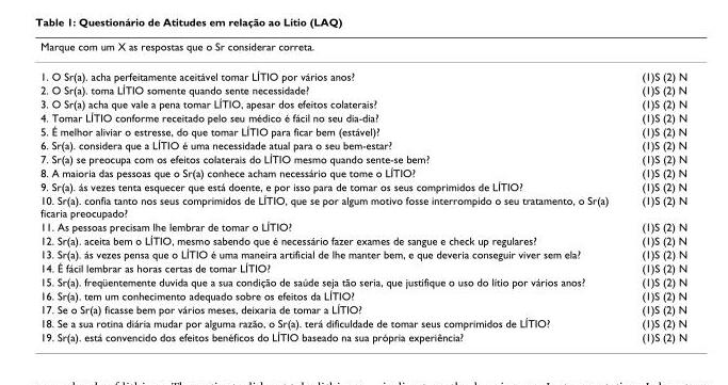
<table><thead><tr><td>Marque com um X as respostas que o Sr considerar correta.</td><td></td></tr></thead><tbody><tr><td>1. O Sr(a). acha perfeitamente aceitável tomar LÍTIO por vários anos?</td><td>(1)S (2) N</td></tr><tr><td>2. O Sr(a). toma LÍTIO somente quando sente necessidade?</td><td>(1)S (2) N</td></tr><tr><td>3. O Sr(a) acha que vale a pena tomar LÍTIO, apesar dos efeitos colaterais?</td><td>(1)S (2) N</td></tr><tr><td>4. Tomar LÍTIO conforme receitado pelo seu médico é fácil no seu dia-dia?</td><td>(1)S (2) N</td></tr><tr><td>5. É melhor aliviar o estresse, do que tomar LÍTIO para ficar bem (estável)?</td><td>(1)S (2) N</td></tr><tr><td>6. Sr(a). considera que a LÍTIO é uma necessidade atual para o seu bem-estar?</td><td>(1)S (2) N</td></tr><tr><td>7. Sr(a) se preocupa com os efeitos colaterais do LÍTIO mesmo quando sente-se bem?</td><td>(1)S (2) N</td></tr><tr><td>8. A maioria das pessoas que o Sr(a) conhece acham necessário que tome o LÍTIO?</td><td>(1)S (2) N</td></tr><tr><td>9. Sr(a). ás vezes tenta esquecer que está doente, e por isso para de tomar os seus comprimidos de LÍTIO?</td><td>(1)S (2) N</td></tr><tr><td>10. Sr(a). confia tanto nos seus comprimidos de LÍTIO, que se por algum motivo fosse interrompido o seu tratamento, o Sr(a) ficaria preocupado?</td><td>(1)S (2) N</td></tr><tr><td>11. As pessoas precisam lhe lembrar de tomar o LÍTIO?</td><td>(1)S (2) N</td></tr><tr><td>12. Sr(a). aceita bem o LÍTIO, mesmo sabendo que é necessário fazer exames de sangue e check up regulares?</td><td>(1)S (2) N</td></tr><tr><td>13. Sr(a). ás vezes pensa que o LÍTIO é uma maneira artificial de lhe manter bem, e que deveria conseguir viver sem ela?</td><td>(1)S (2) N</td></tr><tr><td>14. É fácil lembrar as horas certas de tomar LÍTIO?</td><td>(1)S (2) N</td></tr><tr><td>15. Sr(a). freqüentemente duvida que a sua condição de saúde seja tão seria, que justifique o uso do lítio por vários anos?</td><td>(1)S (2) N</td></tr><tr><td>16. Sr(a). tem um conhecimento adequado sobre os efeitos da LÍTIO?</td><td>(1)S (2) N</td></tr><tr><td>17. Se o Sr(a) ficasse bem por vários meses, deixaria de tomar a LÍTIO?</td><td>(1)S (2) N</td></tr><tr><td>18. Se a sua rotina diária mudar por alguma razão, o Sr(a). terá dificuldade de tomar seus comprimidos de LÍTIO?</td><td>(1)S (2) N</td></tr><tr><td>19. Sr(a). está convencido dos efeitos benéficos do LÍTIO baseado na sua própria experiência?</td><td>(1)S (2) N</td></tr></tbody></table>